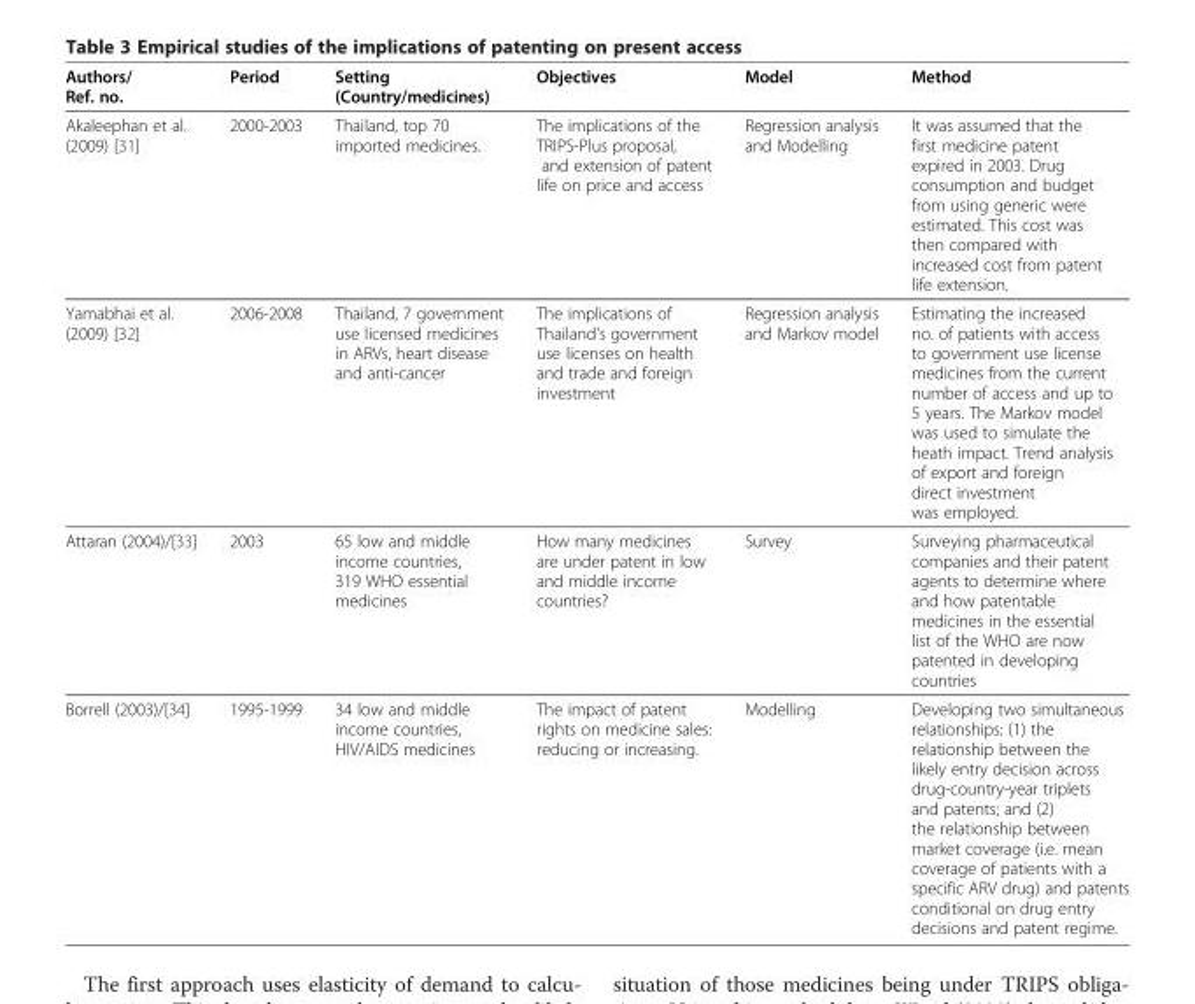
<table><thead><tr><td>Authors/ Ref. no.</td><td>Period</td><td>Setting (Country/medicines)</td><td>Objectives</td><td>Model</td><td>Method</td></tr></thead><tbody><tr><td>Akaleephan et al. (2009) [31]</td><td>2000-2003</td><td>Thailand, top 70 imported medicines.</td><td>The implications of the TRIPS-Plus proposal, and extension of patent life on price and access</td><td>Regression analysis and Modelling</td><td>It was assumed that the first medicine patent expired in 2003. Drug consumption and budget from using generic were estimated. This cost was then compared with increased cost from patent life extension.</td></tr><tr><td>Yamabhai et al. (2009) [32]</td><td>2006-2008</td><td>Thailand, 7 government use licensed medicines in ARVs, heart disease and anti-cancer</td><td>The implications of Thailand&#x27;s government use licenses on health and trade and foreign investment</td><td>Regression analysis and Markov model</td><td>Estimating the increased no. of patients with access to government use license medicines from the current number of access and up to 5 years. The Markov model was used to simulate the heath impact. Trend analysis of export and foreign direct investment was employed.</td></tr><tr><td>Attaran (2004)/[33]</td><td>2003</td><td>65 low and middle income countries, 319 WHO essential medicines</td><td>How many medicines are under patent in low and middle income countries?</td><td>Survey</td><td>Surveying pharmaceutical companies and their patent agents to determine where and how patentable medicines in the essential list of the WHO are now patented in developing countries</td></tr><tr><td>Borrell (2003)/[34]</td><td>1995-1999</td><td>34 low and middle income countries, HIV/AIDS medicines</td><td>The impact of patent rights on medicine sales: reducing or increasing.</td><td>Modelling</td><td>Developing two simultaneous relationships: (1) the relationship between the likely entry decision across drug-country-year triplets and patents; and (2) the relationship between market coverage (i.e. mean coverage of patients with a specific ARV drug) and patents conditional on drug entry decisions and patent regime.</td></tr></tbody></table>